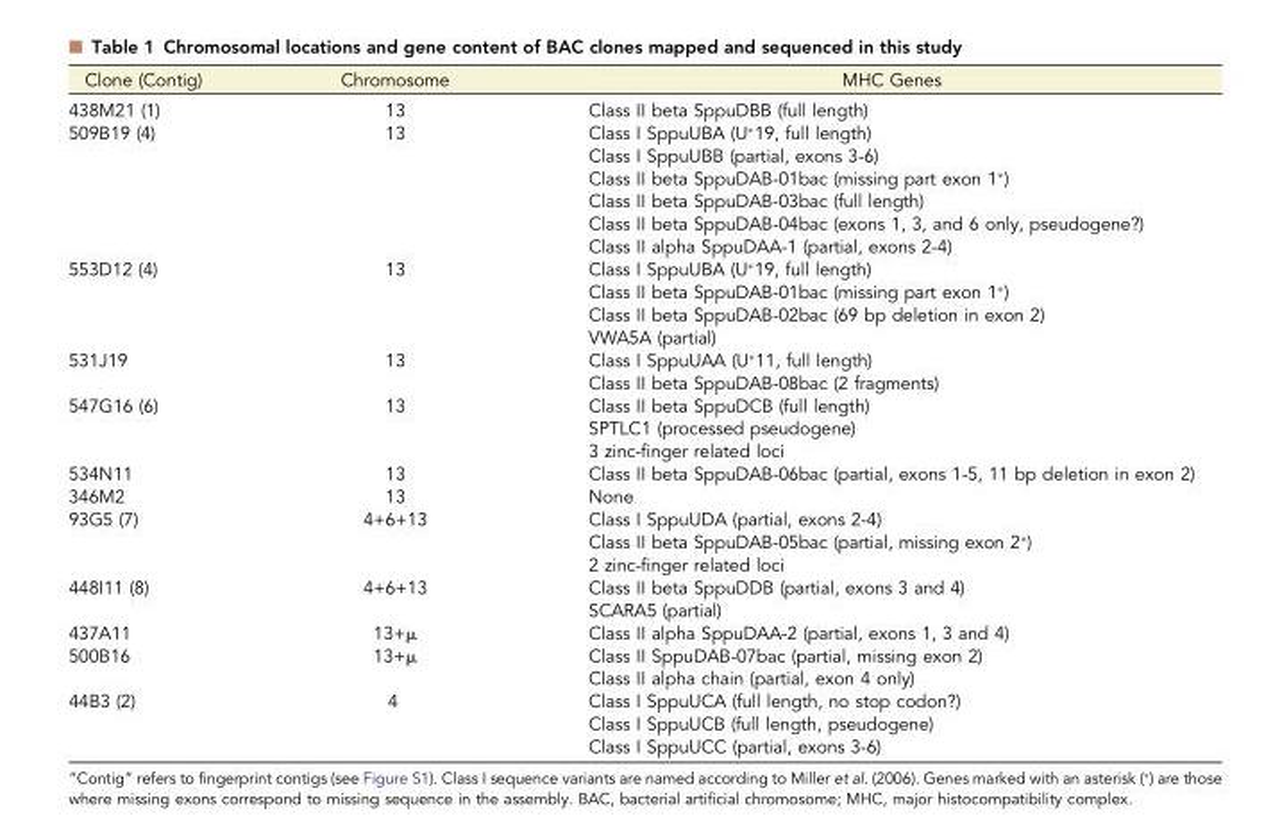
<table><thead><tr><td>Clone (Contig)</td><td>Chromosome</td><td>MHC Genes</td></tr></thead><tbody><tr><td>438M21 (1)</td><td>13</td><td>Class II beta SppuDBB (full length)</td></tr><tr><td rowspan="6">509B19 (4)</td><td rowspan="6">13</td><td>Class I SppuUBA (U*19, full length)</td></tr><tr><td>Class I SppuUBB (partial, exons 3-6)</td></tr><tr><td>Class II beta SppuDAB-01bac (missing part exon 1*)</td></tr><tr><td>Class II beta SppuDAB-03bac (full length)</td></tr><tr><td>Class II beta SppuDAB-04bac (exons 1, 3, and 6 only, pseudogene?)</td></tr><tr><td>Class II alpha SppuDAA-1 (partial, exons 2-4)</td></tr><tr><td rowspan="4">553D12 (4)</td><td rowspan="4">13</td><td>Class I SppuUBA (U*19, full length)</td></tr><tr><td>Class II beta SppuDAB-01bac (missing part exon 1*)</td></tr><tr><td>Class II beta SppuDAB-02bac (69 bp deletion in exon 2)</td></tr><tr><td>VWA5A (partial)</td></tr><tr><td rowspan="2">531J19</td><td rowspan="2">13</td><td>Class I SppuUAA (U*11, full length)</td></tr><tr><td>Class II beta SppuDAB-08bac (2 fragments)</td></tr><tr><td rowspan="3">547G16 (6)</td><td rowspan="3">13</td><td>Class II beta SppuDCB (full length)</td></tr><tr><td>SPTLC1 (processed pseudogene)</td></tr><tr><td>3 zinc-finger related loci</td></tr><tr><td>534N11</td><td>13</td><td>Class II beta SppuDAB-06bac (partial, exons 1-5, 11 bp deletion in exon 2)</td></tr><tr><td>346M2</td><td>13</td><td>None</td></tr><tr><td rowspan="3">93G5 (7)</td><td rowspan="3">4+6+13</td><td>Class I SppuUDA (partial, exons 2-4)</td></tr><tr><td>Class II beta SppuDAB-05bac (partial, missing exon 2*)</td></tr><tr><td>2 zinc-finger related loci</td></tr><tr><td rowspan="2">448I11 (8)</td><td rowspan="2">4+6+13</td><td>Class II beta SppuDDB (partial, exons 3 and 4)</td></tr><tr><td>SCARA5 (partial)</td></tr><tr><td>437A11</td><td>13+µ</td><td>Class II alpha SppuDAA-2 (partial, exons 1, 3 and 4)</td></tr><tr><td rowspan="2">500B16</td><td rowspan="2">13+µ</td><td>Class II SppuDAB-07bac (partial, missing exon 2)</td></tr><tr><td>Class II alpha chain (partial, exon 4 only)</td></tr><tr><td rowspan="3">44B3 (2)</td><td rowspan="3">4</td><td>Class I SppuUCA (full length, no stop codon?)</td></tr><tr><td>Class I SppuUCB (full length, pseudogene)</td></tr><tr><td>Class I SppuUCC (partial, exons 3-6)</td></tr></tbody></table>